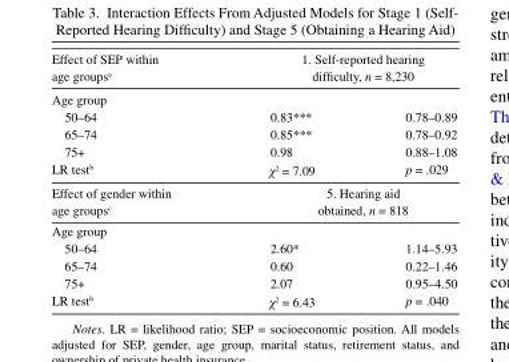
<table><thead><tr><td>Effect of SEP within age groups<sup>a</sup></td><td colspan="2">1. Self-reported hearing difficulty, n = 8,230</td></tr><tr><td colspan="3">Age group</td></tr><tr><td>50–64</td><td>0.83***</td><td>0.78–0.89</td></tr></thead><tbody><tr><td>65–74</td><td>0.85***</td><td>0.78–0.92</td></tr><tr><td>75+</td><td>0.98</td><td>0.88–1.08</td></tr><tr><td>LR test<sup>b</sup></td><td>χ<sup>2</sup> = 7.09</td><td>p = .029</td></tr><tr><td>Effect of gender within age groups<sup>c</sup></td><td colspan="2">5. Hearing aid obtained, n = 818</td></tr><tr><td colspan="3">Age group</td></tr><tr><td>50–64</td><td>2.60*</td><td>1.14–5.93</td></tr><tr><td>65–74</td><td>0.60</td><td>0.22–1.46</td></tr><tr><td>75+</td><td>2.07</td><td>0.95–4.50</td></tr><tr><td>LR test<sup>b</sup></td><td>χ<sup>2</sup> = 6.43</td><td>p = .040</td></tr></tbody></table>